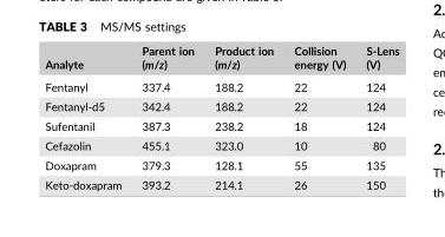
<table><thead><tr><td>Analyte</td><td>Parent ion (m/z)</td><td>Product ion (m/z)</td><td>Collision energy (V)</td><td>S‐Lens (V)</td></tr></thead><tbody><tr><td>Fentanyl</td><td>337.4</td><td>188.2</td><td>22</td><td>124</td></tr><tr><td>Fentanyl‐d5</td><td>342.4</td><td>188.2</td><td>22</td><td>124</td></tr><tr><td>Sufentanil</td><td>387.3</td><td>238.2</td><td>18</td><td>124</td></tr><tr><td>Cefazolin</td><td>455.1</td><td>323.0</td><td>10</td><td>80</td></tr><tr><td>Doxapram</td><td>379.3</td><td>128.1</td><td>55</td><td>135</td></tr><tr><td>Keto‐doxapram</td><td>393.2</td><td>214.1</td><td>26</td><td>150</td></tr></tbody></table>